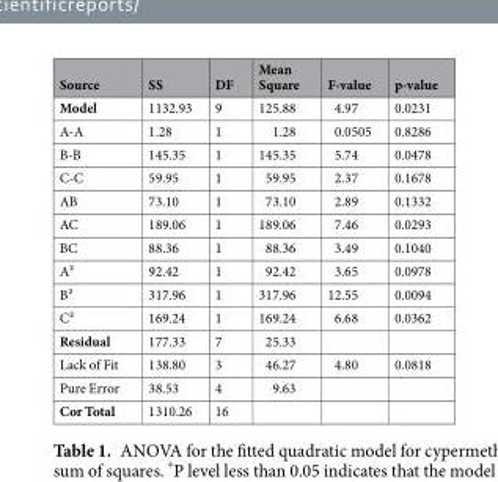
<table><thead><tr><td>Source</td><td>SS</td><td>DF</td><td>Mean Square</td><td>F-value</td><td>p-value</td></tr></thead><tbody><tr><td>Model</td><td>1132.93</td><td>9</td><td>125.88</td><td>4.97</td><td>0.0231</td></tr><tr><td>A-A</td><td>1.28</td><td>1</td><td>1.28</td><td>0.0505</td><td>0.8286</td></tr><tr><td>B-B</td><td>145.35</td><td>1</td><td>145.35</td><td>5.74</td><td>0.0478</td></tr><tr><td>C-C</td><td>59.95</td><td>1</td><td>59.95</td><td>2.37</td><td>0.1678</td></tr><tr><td>AB</td><td>73.10</td><td>1</td><td>73.10</td><td>2.89</td><td>0.1332</td></tr><tr><td>AC</td><td>189.06</td><td>1</td><td>189.06</td><td>7.46</td><td>0.0293</td></tr><tr><td>BC</td><td>88.36</td><td>1</td><td>88.36</td><td>3.49</td><td>0.1040</td></tr><tr><td>A²</td><td>92.42</td><td>1</td><td>92.42</td><td>3.65</td><td>0.0978</td></tr><tr><td>B²</td><td>317.96</td><td>1</td><td>317.96</td><td>12.55</td><td>0.0094</td></tr><tr><td>C²</td><td>169.24</td><td>1</td><td>169.24</td><td>6.68</td><td>0.0362</td></tr><tr><td>Residual</td><td>177.33</td><td>7</td><td>25.33</td><td></td><td></td></tr><tr><td>Lack of Fit</td><td>138.80</td><td>3</td><td>46.27</td><td>4.80</td><td>0.0818</td></tr><tr><td>Pure Error</td><td>38.53</td><td>4</td><td>9.63</td><td></td><td></td></tr><tr><td>Cor Total</td><td>1310.26</td><td>16</td><td></td><td></td><td></td></tr></tbody></table>